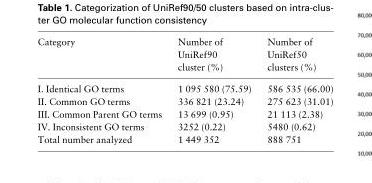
<table><thead><tr><td>Category</td><td>Number of UniRef90 cluster (%)</td><td>Number of UniRef50 clusters (%)</td></tr></thead><tbody><tr><td>I. Identical GO terms</td><td>1 095 580 (75.59)</td><td>586 535 (66.00)</td></tr><tr><td>II. Common GO terms</td><td>336 821 (23.24)</td><td>275 623 (31.01)</td></tr><tr><td>III. Common Parent GO terms</td><td>13 699 (0.95)</td><td>21 113 (2.38)</td></tr><tr><td>IV. Inconsistent GO terms</td><td>3252 (0.22)</td><td>5480 (0.62)</td></tr><tr><td>Total number analyzed</td><td>1 449 352</td><td>888 751</td></tr></tbody></table>